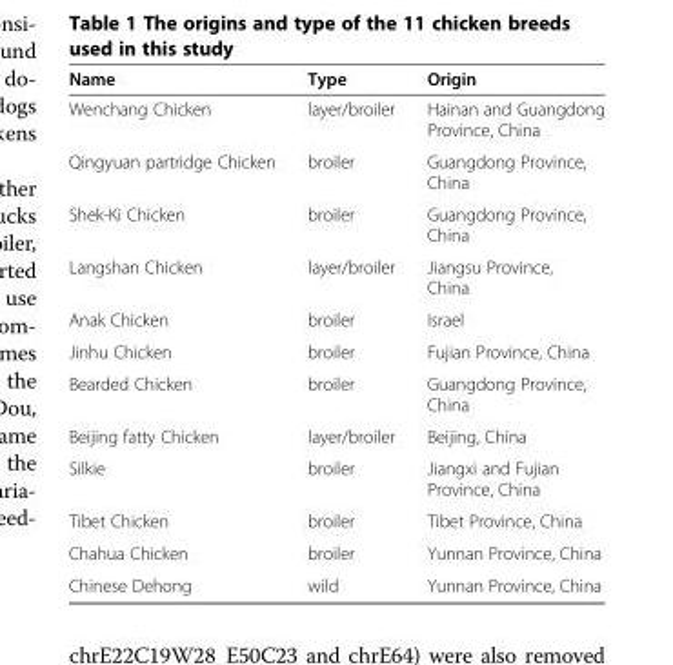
<table><thead><tr><td>Name</td><td>Type</td><td>Origin</td></tr></thead><tbody><tr><td>Wenchang Chicken</td><td>layer/broiler</td><td>Hainan and Guangdong Province, China</td></tr><tr><td>Qingyuan partridge Chicken</td><td>broiler</td><td>Guangdong Province, China</td></tr><tr><td>Shek-Ki Chicken</td><td>broiler</td><td>Guangdong Province, China</td></tr><tr><td>Langshan Chicken</td><td>layer/broiler</td><td>Jiangsu Province, China</td></tr><tr><td>Anak Chicken</td><td>broiler</td><td>Israel</td></tr><tr><td>Jinhu Chicken</td><td>broiler</td><td>Fujian Province, China</td></tr><tr><td>Bearded Chicken</td><td>broiler</td><td>Guangdong Province, China</td></tr><tr><td>Beijing fatty Chicken</td><td>layer/broiler</td><td>Beijing, China</td></tr><tr><td>Silkie</td><td>broiler</td><td>Jiangxi and Fujian Province, China</td></tr><tr><td>Tibet Chicken</td><td>broiler</td><td>Tibet Province, China</td></tr><tr><td>Chahua Chicken</td><td>broiler</td><td>Yunnan Province, China</td></tr><tr><td>Chinese Dehong</td><td>wild</td><td>Yunnan Province, China</td></tr></tbody></table>